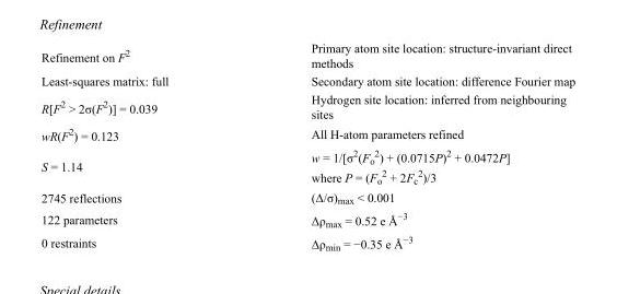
<table><tbody><tr><td>Refinement on F<sup>2</sup></td><td>Primary atom site location: structure-invariant direct methods</td></tr><tr><td>Least-squares matrix: full</td><td>Secondary atom site location: difference Fourier map</td></tr><tr><td>R[F<sup>2</sup> &gt; 2σ(F<sup>2</sup>)] = 0.039</td><td>Hydrogen site location: inferred from neighbouring sites</td></tr><tr><td>wR(F<sup>2</sup>) = 0.123</td><td>All H-atom parameters refined</td></tr><tr><td>S = 1.14</td><td>w = 1/[σ<sup>2</sup>(F<sub>o</sub> <sup>2</sup>) + (0.0715P)<sup>2</sup> + 0.0472P] where P = (F<sub>o</sub> <sup>2</sup> + 2F<sub>c</sub> <sup>2</sup>)/3</td></tr><tr><td>2745 reflections</td><td>(Δ/σ)<sub>max</sub> &lt; 0.001</td></tr><tr><td>122 parameters</td><td>Δρ<sub>max</sub> = 0.52 e Å<sup>−3</sup></td></tr><tr><td>0 restraints</td><td>Δρ<sub>min</sub> = −0.35 e Å<sup>−3</sup></td></tr></tbody></table>